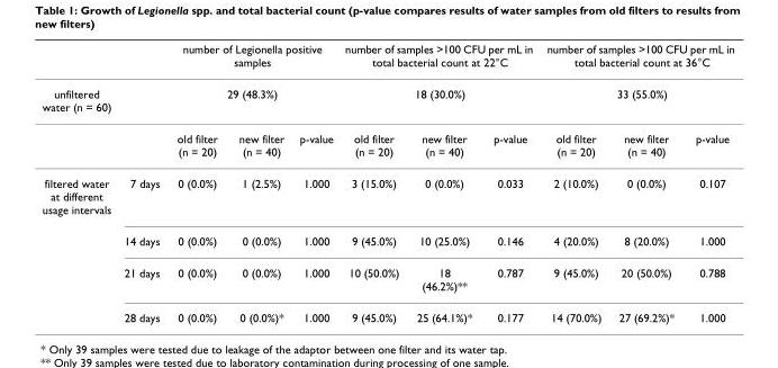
<table><thead><tr><td rowspan="3">unfiltered water (n = 60)</td><td rowspan="3"></td><td rowspan="2" colspan="3">number of Legionella positive samples 29 (48.3%)</td><td rowspan="2" colspan="3">number of samples &gt;100 CFU per mL in total bacterial count at 22°C 18 (30.0%)</td><td rowspan="2" colspan="3">number of samples &gt;100 CFU per mL in total bacterial count at 36°C 33 (55.0%)</td></tr><tr></tr><tr><td>old filter (n = 20)</td><td>new filter (n = 40)</td><td>p-value</td><td>old filter (n = 20)</td><td>new filter (n = 40)</td><td>p-value</td><td>old filter (n = 20)</td><td>new filter (n = 40)</td><td>p-value</td></tr></thead><tbody><tr><td rowspan="4">filtered water at different usage intervals</td><td>7 days</td><td>0 (0.0%)</td><td>1 (2.5%)</td><td>1.000</td><td>3 (15.0%)</td><td>0 (0.0%)</td><td>0.033</td><td>2 (10.0%)</td><td>0 (0.0%)</td><td>0.107</td></tr><tr><td>14 days</td><td>0 (0.0%)</td><td>0 (0.0%)</td><td>1.000</td><td>9 (45.0%)</td><td>10 (25.0%)</td><td>0.146</td><td>4 (20.0%)</td><td>8 (20.0%)</td><td>1.000</td></tr><tr><td>21 days</td><td>0 (0.0%)</td><td>0 (0.0%)</td><td>1.000</td><td>10 (50.0%)</td><td>18 (46.2%)**</td><td>0.787</td><td>9 (45.0%)</td><td>20 (50.0%)</td><td>0.788</td></tr><tr><td>28 days</td><td>0 (0.0%)</td><td>0 (0.0%)*</td><td>1.000</td><td>9 (45.0%)</td><td>25 (64.1%)*</td><td>0.177</td><td>14 (70.0%)</td><td>27 (69.2%)*</td><td>1.000</td></tr></tbody></table>